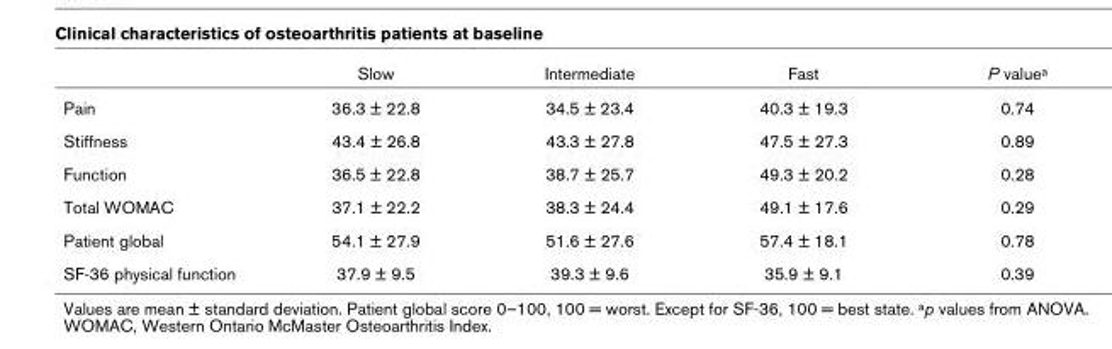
<table><thead><tr><td></td><td>Slow</td><td>Intermediate</td><td>Fast</td><td>P valuea</td></tr></thead><tbody><tr><td>Pain</td><td>36.3 ± 22.8</td><td>34.5 ± 23.4</td><td>40.3 ± 19.3</td><td>0.74</td></tr><tr><td>Stiffness</td><td>43.4 ± 26.8</td><td>43.3 ± 27.8</td><td>47.5 ± 27.3</td><td>0.89</td></tr><tr><td>Function</td><td>36.5 ± 22.8</td><td>38.7 ± 25.7</td><td>49.3 ± 20.2</td><td>0.28</td></tr><tr><td>Total WOMAC</td><td>37.1 ± 22.2</td><td>38.3 ± 24.4</td><td>49.1 ± 17.6</td><td>0.29</td></tr><tr><td>Patient global</td><td>54.1 ± 27.9</td><td>51.6 ± 27.6</td><td>57.4 ± 18.1</td><td>0.78</td></tr><tr><td>SF-36 physical function</td><td>37.9 ± 9.5</td><td>39.3 ± 9.6</td><td>35.9 ± 9.1</td><td>0.39</td></tr></tbody></table>